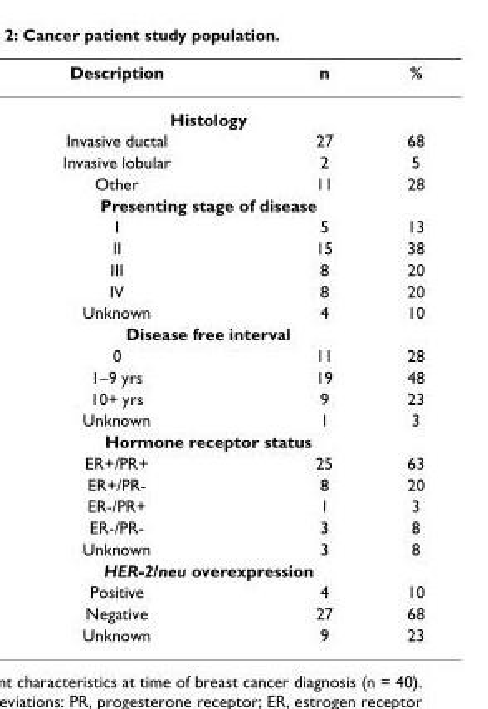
<table><thead><tr><td>Description</td><td>n</td><td>%</td></tr></thead><tbody><tr><td colspan="3">Histology</td></tr><tr><td>Invasive ductal</td><td>27</td><td>68</td></tr><tr><td>Invasive lobular</td><td>2</td><td>5</td></tr><tr><td>Other</td><td>11</td><td>28</td></tr><tr><td colspan="3">Presenting stage of disease</td></tr><tr><td>I</td><td>5</td><td>13</td></tr><tr><td>II</td><td>15</td><td>38</td></tr><tr><td>III</td><td>8</td><td>20</td></tr><tr><td>IV</td><td>8</td><td>20</td></tr><tr><td>Unknown</td><td>4</td><td>10</td></tr><tr><td colspan="3">Disease free interval</td></tr><tr><td>0</td><td>11</td><td>28</td></tr><tr><td>1–9 yrs</td><td>19</td><td>48</td></tr><tr><td>10+ yrs</td><td>9</td><td>23</td></tr><tr><td>Unknown</td><td>1</td><td>3</td></tr><tr><td colspan="3">Hormone receptor status</td></tr><tr><td>ER+/PR+</td><td>25</td><td>63</td></tr><tr><td>ER+/PR-</td><td>8</td><td>20</td></tr><tr><td>ER-/PR+</td><td>1</td><td>3</td></tr><tr><td>ER-/PR-</td><td>3</td><td>8</td></tr><tr><td>Unknown</td><td>3</td><td>8</td></tr><tr><td colspan="3">HER-2/neu overexpression</td></tr><tr><td>Positive</td><td>4</td><td>10</td></tr><tr><td>Negative</td><td>27</td><td>68</td></tr><tr><td>Unknown</td><td>9</td><td>23</td></tr></tbody></table>